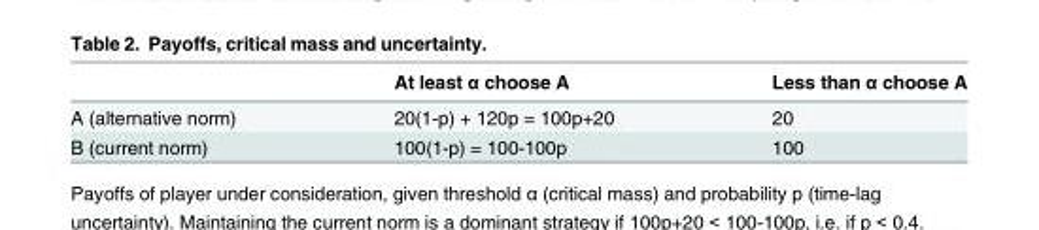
<table><thead><tr><td></td><td>At least α choose A</td><td>Less than α choose A</td></tr></thead><tbody><tr><td>A (alternative norm)</td><td>20(1-p) + 120p = 100p+20</td><td>20</td></tr><tr><td>B (current norm)</td><td>100(1-p) = 100-100p</td><td>100</td></tr></tbody></table>